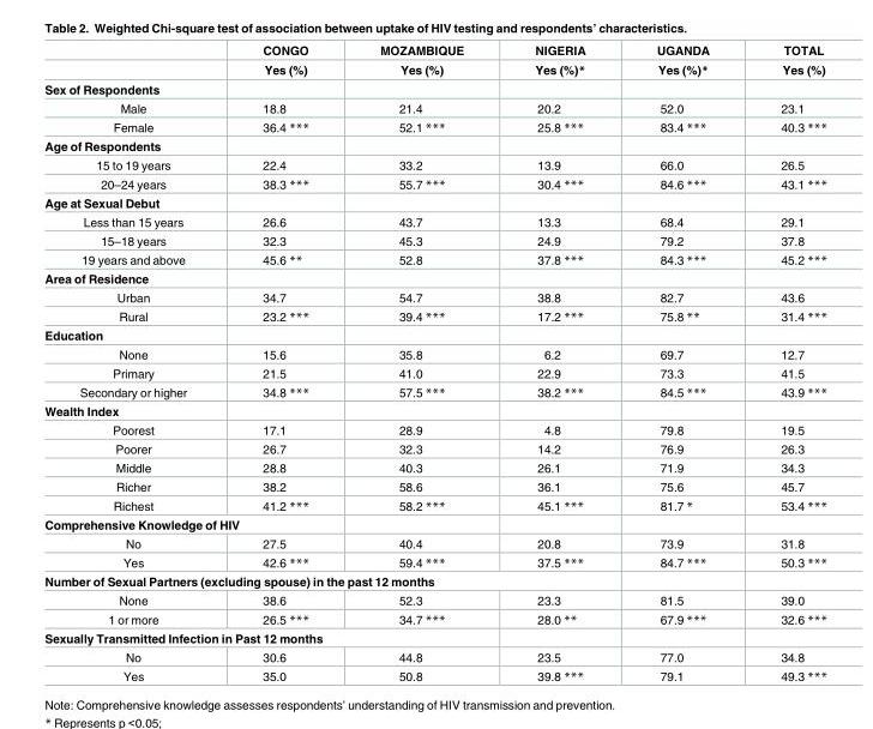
<table><thead><tr><td rowspan="2"></td><td rowspan="2">CONGO Yes (%)</td><td rowspan="2">MOZAMBIQUE Yes (%)</td><td rowspan="2">NIGERIA Yes (%)*</td><td rowspan="2">UGANDA Yes (%)*</td><td rowspan="2">TOTAL Yes (%)</td></tr><tr></tr></thead><tbody><tr><td colspan="6">Sex of Respondents</td></tr><tr><td>Male</td><td>18.8</td><td>21.4</td><td>20.2</td><td>52.0</td><td>23.1</td></tr><tr><td>Female</td><td>36.4 ***</td><td>52.1 ***</td><td>25.8 ***</td><td>83.4 ***</td><td>40.3 ***</td></tr><tr><td colspan="6">Age of Respondents</td></tr><tr><td>15 to 19 years</td><td>22.4</td><td>33.2</td><td>13.9</td><td>66.0</td><td>26.5</td></tr><tr><td>20–24 years</td><td>38.3 ***</td><td>55.7 ***</td><td>30.4 ***</td><td>84.6 ***</td><td>43.1 ***</td></tr><tr><td colspan="6">Age at Sexual Debut</td></tr><tr><td>Less than 15 years</td><td>26.6</td><td>43.7</td><td>13.3</td><td>68.4</td><td>29.1</td></tr><tr><td>15–18 years</td><td>32.3</td><td>45.3</td><td>24.9</td><td>79.2</td><td>37.8</td></tr><tr><td>19 years and above</td><td>45.6 **</td><td>52.8</td><td>37.8 ***</td><td>84.3 ***</td><td>45.2 ***</td></tr><tr><td colspan="6">Area of Residence</td></tr><tr><td>Urban</td><td>34.7</td><td>54.7</td><td>38.8</td><td>82.7</td><td>43.6</td></tr><tr><td>Rural</td><td>23.2 ***</td><td>39.4 ***</td><td>17.2 ***</td><td>75.8 **</td><td>31.4 ***</td></tr><tr><td colspan="6">Education</td></tr><tr><td>None</td><td>15.6</td><td>35.8</td><td>6.2</td><td>69.7</td><td>12.7</td></tr><tr><td>Primary</td><td>21.5</td><td>41.0</td><td>22.9</td><td>73.3</td><td>41.5</td></tr><tr><td>Secondary or higher</td><td>34.8 ***</td><td>57.5 ***</td><td>38.2 ***</td><td>84.5 ***</td><td>43.9 ***</td></tr><tr><td colspan="6">Wealth Index</td></tr><tr><td>Poorest</td><td>17.1</td><td>28.9</td><td>4.8</td><td>79.8</td><td>19.5</td></tr><tr><td>Poorer</td><td>26.7</td><td>32.3</td><td>14.2</td><td>76.9</td><td>26.3</td></tr><tr><td>Middle</td><td>28.8</td><td>40.3</td><td>26.1</td><td>71.9</td><td>34.3</td></tr><tr><td>Richer</td><td>38.2</td><td>58.6</td><td>36.1</td><td>75.6</td><td>45.7</td></tr><tr><td>Richest</td><td>41.2 ***</td><td>58.2 ***</td><td>45.1 ***</td><td>81.7 *</td><td>53.4 ***</td></tr><tr><td colspan="6">Comprehensive Knowledge of HIV</td></tr><tr><td>No</td><td>27.5</td><td>40.4</td><td>20.8</td><td>73.9</td><td>31.8</td></tr><tr><td>Yes</td><td>42.6 ***</td><td>59.4 ***</td><td>37.5 ***</td><td>84.7 ***</td><td>50.3 ***</td></tr><tr><td colspan="6">Number of Sexual Partners (excluding spouse) in the past 12 months</td></tr><tr><td>None</td><td>38.6</td><td>52.3</td><td>23.3</td><td>81.5</td><td>39.0</td></tr><tr><td>1 or more</td><td>26.5 ***</td><td>34.7 ***</td><td>28.0 **</td><td>67.9 ***</td><td>32.6 ***</td></tr><tr><td colspan="6">Sexually Transmitted Infection in Past 12 months</td></tr><tr><td>No</td><td>30.6</td><td>44.8</td><td>23.5</td><td>77.0</td><td>34.8</td></tr><tr><td>Yes</td><td>35.0</td><td>50.8</td><td>39.8 ***</td><td>79.1</td><td>49.3 ***</td></tr></tbody></table>